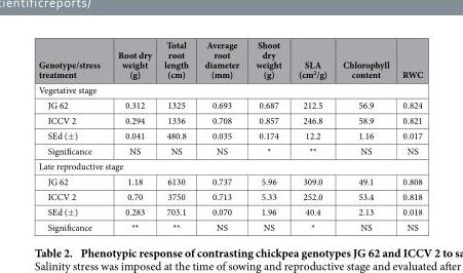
<table><thead><tr><td>Genotype/stress treatment</td><td>Root dry weight (g)</td><td>Total root length (cm)</td><td>Average root diameter (mm)</td><td>Shoot dry weight (g)</td><td>SLA (cm<sup>2</sup>/g)</td><td>Chlorophyll content</td><td>RWC</td></tr></thead><tbody><tr><td colspan="8">Vegetative stage</td></tr><tr><td>JG 62</td><td>0.312</td><td>1325</td><td>0.693</td><td>0.687</td><td>212.5</td><td>56.9</td><td>0.824</td></tr><tr><td>ICCV 2</td><td>0.294</td><td>1336</td><td>0.708</td><td>0.857</td><td>246.8</td><td>58.9</td><td>0.821</td></tr><tr><td>SEd (± )</td><td>0.041</td><td>480.8</td><td>0.035</td><td>0.174</td><td>12.2</td><td>1.16</td><td>0.017</td></tr><tr><td>Significance</td><td>NS</td><td>NS</td><td>NS</td><td>*</td><td>**</td><td>NS</td><td>NS</td></tr><tr><td colspan="8">Late reproductive stage</td></tr><tr><td>JG 62</td><td>1.18</td><td>6130</td><td>0.737</td><td>5.96</td><td>309.0</td><td>49.1</td><td>0.808</td></tr><tr><td>ICCV 2</td><td>0.70</td><td>3750</td><td>0.713</td><td>5.33</td><td>252.0</td><td>53.4</td><td>0.818</td></tr><tr><td>SEd (± )</td><td>0.283</td><td>703.1</td><td>0.070</td><td>1.96</td><td>40.4</td><td>2.13</td><td>0.018</td></tr><tr><td>Significance</td><td>**</td><td>**</td><td>NS</td><td>NS</td><td>*</td><td>NS</td><td>NS</td></tr></tbody></table>